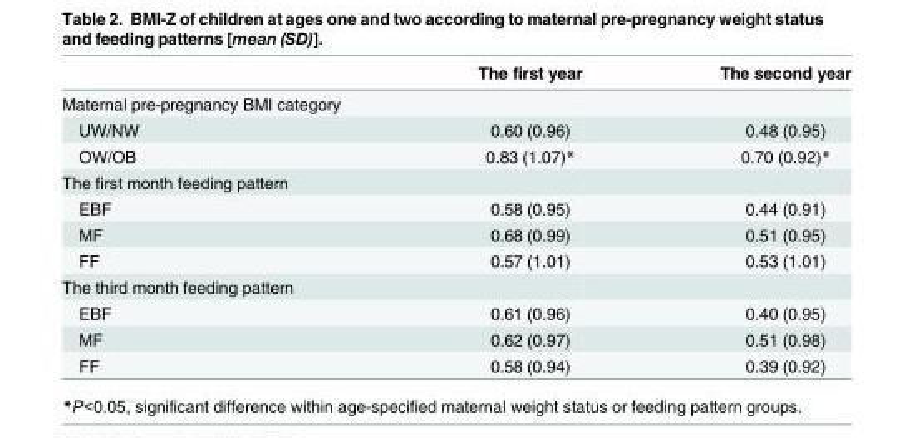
<table><thead><tr><td></td><td>The first year</td><td>The second year</td></tr></thead><tbody><tr><td colspan="3">Maternal pre-pregnancy BMI category</td></tr><tr><td>UW/NW</td><td>0.60 (0.96)</td><td>0.48 (0.95)</td></tr><tr><td>OW/OB</td><td>0.83 (1.07)*</td><td>0.70 (0.92)*</td></tr><tr><td colspan="3">The first month feeding pattern</td></tr><tr><td>EBF</td><td>0.58 (0.95)</td><td>0.44 (0.91)</td></tr><tr><td>MF</td><td>0.68 (0.99)</td><td>0.51 (0.95)</td></tr><tr><td>FF</td><td>0.57 (1.01)</td><td>0.53 (1.01)</td></tr><tr><td colspan="3">The third month feeding pattern</td></tr><tr><td>EBF</td><td>0.61 (0.96)</td><td>0.40 (0.95)</td></tr><tr><td>MF</td><td>0.62 (0.97)</td><td>0.51 (0.98)</td></tr><tr><td>FF</td><td>0.58 (0.94)</td><td>0.39 (0.92)</td></tr></tbody></table>